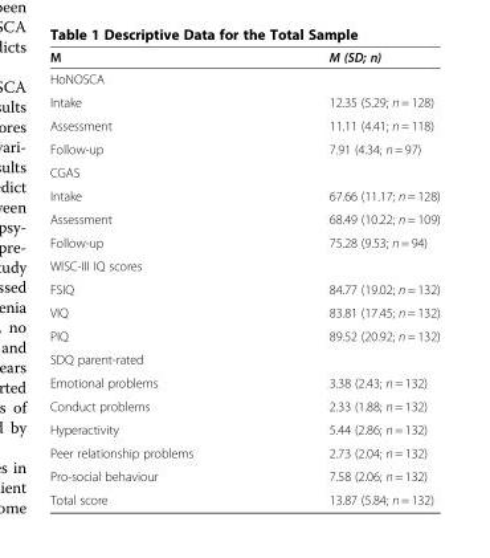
<table><thead><tr><td>M</td><td>M (SD; n)</td></tr></thead><tbody><tr><td colspan="2">HoNOSCA</td></tr><tr><td>Intake</td><td>12.35 (5.29; n = 128)</td></tr><tr><td>Assessment</td><td>11.11 (4.41; n = 118)</td></tr><tr><td>Follow-up</td><td>7.91 (4.34; n = 97)</td></tr><tr><td colspan="2">CGAS</td></tr><tr><td>Intake</td><td>67.66 (11.17; n = 128)</td></tr><tr><td>Assessment</td><td>68.49 (10.22; n = 109)</td></tr><tr><td>Follow-up</td><td>75.28 (9.53; n = 94)</td></tr><tr><td colspan="2">WISC-III IQ scores</td></tr><tr><td>FSIQ</td><td>84.77 (19.02; n = 132)</td></tr><tr><td>VIQ</td><td>83.81 (17.45; n = 132)</td></tr><tr><td>PIQ</td><td>89.52 (20.92; n = 132)</td></tr><tr><td colspan="2">SDQ parent-rated</td></tr><tr><td>Emotional problems</td><td>3.38 (2.43; n = 132)</td></tr><tr><td>Conduct problems</td><td>2.33 (1.88; n = 132)</td></tr><tr><td>Hyperactivity</td><td>5.44 (2.86; n = 132)</td></tr><tr><td>Peer relationship problems</td><td>2.73 (2.04; n = 132)</td></tr><tr><td>Pro-social behaviour</td><td>7.58 (2.06; n = 132)</td></tr><tr><td>Total score</td><td>13.87 (5.84; n = 132)</td></tr></tbody></table>